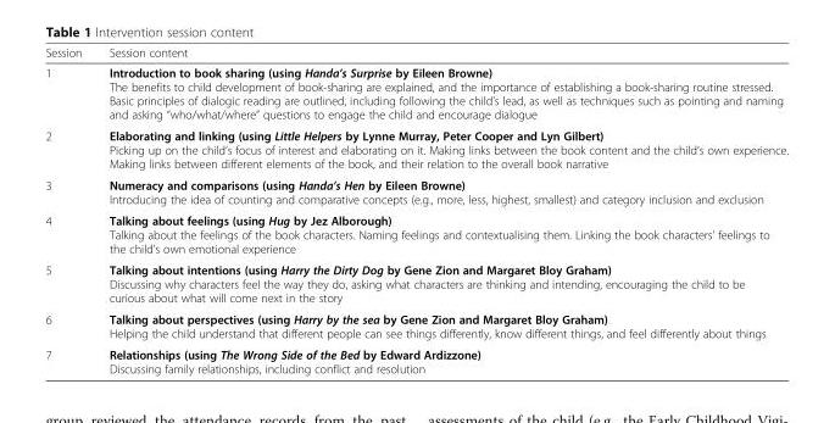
<table><thead><tr><td>Session</td><td>Session content</td></tr></thead><tbody><tr><td>1</td><td>Introduction to book sharing (using Handa’s Surprise by Eileen Browne) The benefits to child development of book-sharing are explained, and the importance of establishing a book-sharing routine stressed. Basic principles of dialogic reading are outlined, including following the child’s lead, as well as techniques such as pointing and naming and asking “who/what/where” questions to engage the child and encourage dialogue</td></tr><tr><td>2</td><td>Elaborating and linking (using Little Helpers by Lynne Murray, Peter Cooper and Lyn Gilbert) Picking up on the child’s focus of interest and elaborating on it. Making links between the book content and the child’s own experience. Making links between different elements of the book, and their relation to the overall book narrative</td></tr><tr><td>3</td><td>Numeracy and comparisons (using Handa’s Hen by Eileen Browne) Introducing the idea of counting and comparative concepts (e.g., more, less, highest, smallest) and category inclusion and exclusion</td></tr><tr><td>4</td><td>Talking about feelings (using Hug by Jez Alborough) Talking about the feelings of the book characters. Naming feelings and contextualising them. Linking the book characters’ feelings to the child’s own emotional experience</td></tr><tr><td>5</td><td>Talking about intentions (using Harry the Dirty Dog by Gene Zion and Margaret Bloy Graham) Discussing why characters feel the way they do, asking what characters are thinking and intending, encouraging the child to be curious about what will come next in the story</td></tr><tr><td>6</td><td>Talking about perspectives (using Harry by the sea by Gene Zion and Margaret Bloy Graham) Helping the child understand that different people can see things differently, know different things, and feel differently about things</td></tr><tr><td>7</td><td>Relationships (using The Wrong Side of the Bed by Edward Ardizzone) Discussing family relationships, including conflict and resolution</td></tr></tbody></table>